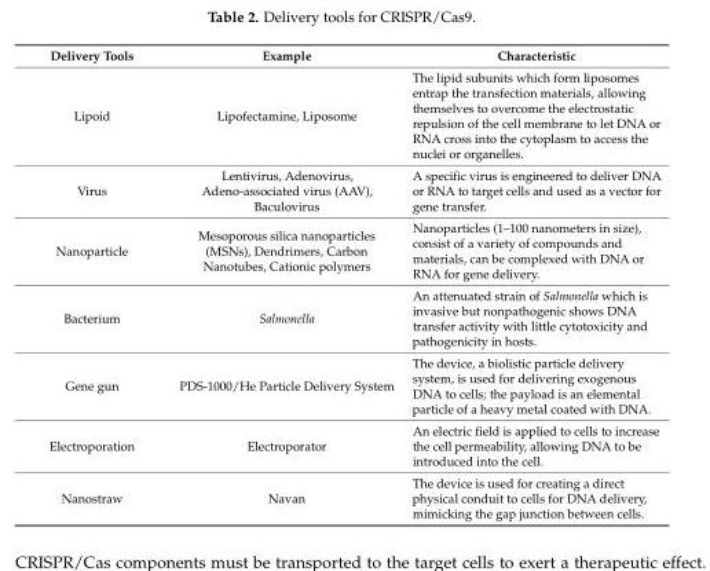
<table><thead><tr><td>Delivery Tools</td><td>Example</td><td>Characteristic</td></tr></thead><tbody><tr><td>Lipoid</td><td>Lipofectamine, Liposome</td><td>The lipid subunits which form liposomes entrap the transfection materials, allowing themselves to overcome the electrostatic repulsion of the cell membrane to let DNA or RNA cross into the cytoplasm to access the nuclei or organelles.</td></tr><tr><td>Virus</td><td>Lentivirus, Adenovirus, Adeno-associated virus (AAV), Baculovirus</td><td>A specific virus is engineered to deliver DNA or RNA to target cells and used as a vector for gene transfer.</td></tr><tr><td>Nanoparticle</td><td>Mesoporous silica nanoparticles (MSNs), Dendrimers, Carbon Nanotubes, Cationic polymers</td><td>Nanoparticles (1–100 nanometers in size), consist of a variety of compounds and materials, can be complexed with DNA or RNA for gene delivery.</td></tr><tr><td>Bacterium</td><td>Salmonella</td><td>An attenuated strain of Salmonella which is invasive but nonpathogenic shows DNA transfer activity with little cytotoxicity and pathogenicity in hosts.</td></tr><tr><td>Gene gun</td><td>PDS-1000/He Particle Delivery System</td><td>The device, a biolistic particle delivery system, is used for delivering exogenous DNA to cells; the payload is an elemental particle of a heavy metal coated with DNA.</td></tr><tr><td>Electroporation</td><td>Electroporator</td><td>An electric field is applied to cells to increase the cell permeability, allowing DNA to be introduced into the cell.</td></tr><tr><td>Nanostraw</td><td>Navan</td><td>The device is used for creating a direct physical conduit to cells for DNA delivery, mimicking the gap junction between cells.</td></tr></tbody></table>